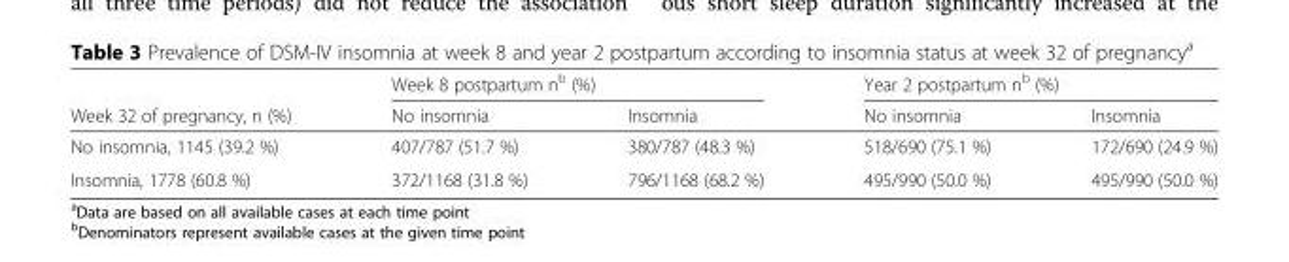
<table><thead><tr><td rowspan="2">Week 32 of pregnancy, n (%)</td><td colspan="2">Week 8 postpartum n<sup>b</sup> (%)</td><td colspan="2">Year 2 postpartum n<sup>b</sup> (%)</td></tr><tr><td>No insomnia</td><td>Insomnia</td><td>No insomnia</td><td>Insomnia</td></tr></thead><tbody><tr><td>No insomnia, 1145 (39.2 %)</td><td>407/787 (51.7 %)</td><td>380/787 (48.3 %)</td><td>518/690 (75.1 %)</td><td>172/690 (24.9 %)</td></tr><tr><td>Insomnia, 1778 (60.8 %)</td><td>372/1168 (31.8 %)</td><td>796/1168 (68.2 %)</td><td>495/990 (50.0 %)</td><td>495/990 (50.0 %)</td></tr></tbody></table>